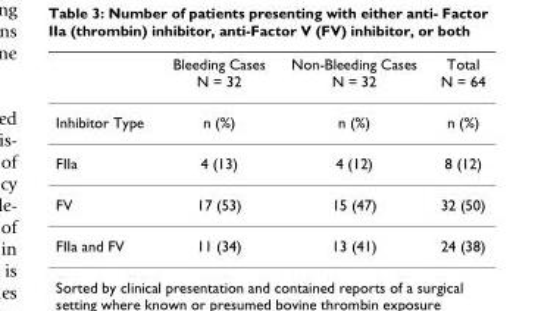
<table><thead><tr><td></td><td>Bleeding Cases N = 32</td><td>Non-Bleeding Cases N = 32</td><td>Total N = 64</td></tr></thead><tbody><tr><td>Inhibitor Type</td><td>n (%)</td><td>n (%)</td><td>n (%)</td></tr><tr><td>FIIa</td><td>4 (13)</td><td>4 (12)</td><td>8 (12)</td></tr><tr><td>FV</td><td>17 (53)</td><td>15 (47)</td><td>32 (50)</td></tr><tr><td>FIIa and FV</td><td>11 (34)</td><td>13 (41)</td><td>24 (38)</td></tr></tbody></table>